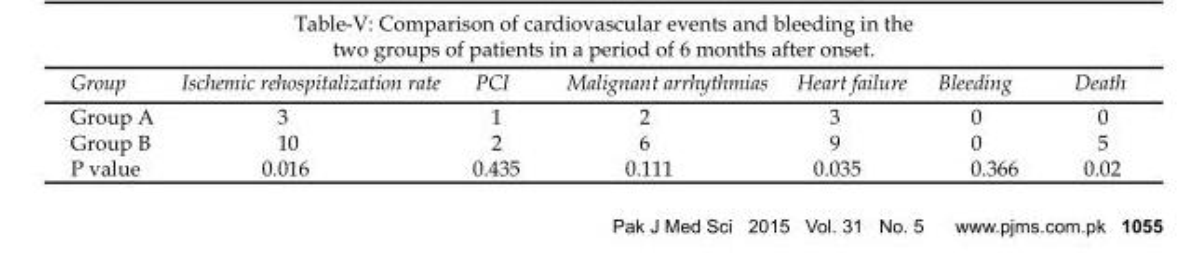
<table><thead><tr><td>Group</td><td>Ischemic rehospitalization rate</td><td>PCI</td><td>Malignant arrhythmias</td><td>Heart failure</td><td>Bleeding</td><td>Death</td></tr></thead><tbody><tr><td>Group A</td><td>3</td><td>1</td><td>2</td><td>3</td><td>0</td><td>0</td></tr><tr><td>Group B</td><td>10</td><td>2</td><td>6</td><td>9</td><td>0</td><td>5</td></tr><tr><td>P value</td><td>0.016</td><td>0.435</td><td>0.111</td><td>0.035</td><td>0.366</td><td>0.02</td></tr></tbody></table>